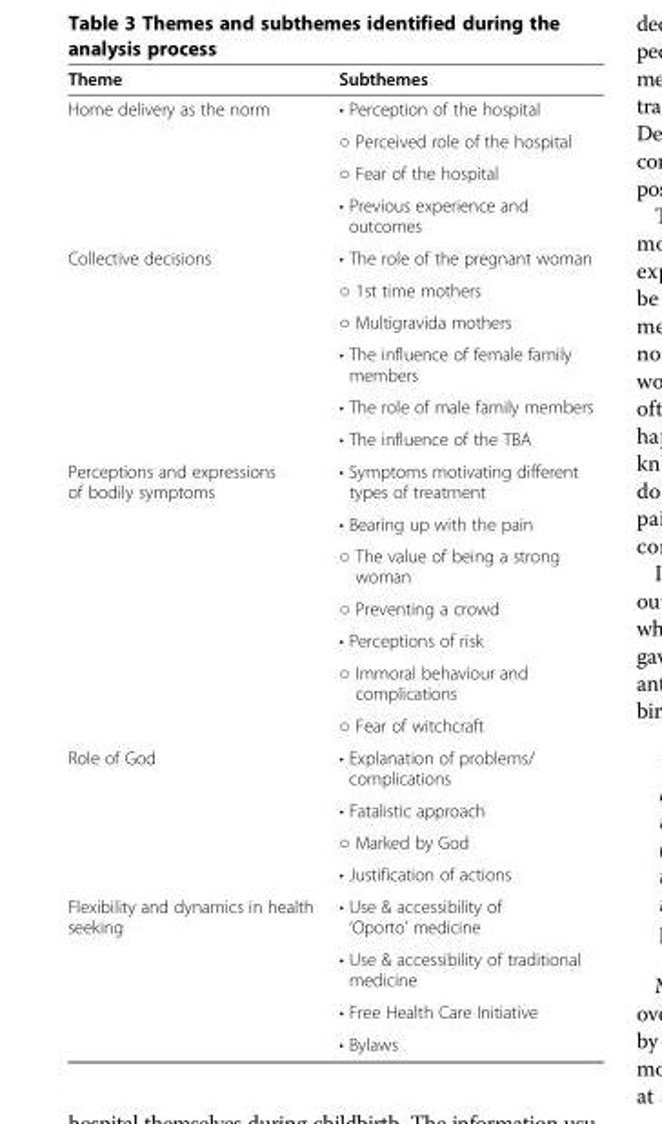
<table><thead><tr><td>Theme</td><td>Subthemes</td></tr></thead><tbody><tr><td rowspan="4">Home delivery as the norm</td><td>• Perception of the hospital</td></tr><tr><td>○ Perceived role of the hospital</td></tr><tr><td>○ Fear of the hospital</td></tr><tr><td>• Previous experience and outcomes</td></tr><tr><td rowspan="6">Collective decisions</td><td>• The role of the pregnant woman</td></tr><tr><td>○ 1st time mothers</td></tr><tr><td>○ Multigravida mothers</td></tr><tr><td>• The influence of female family members</td></tr><tr><td>• The role of male family members</td></tr><tr><td>• The influence of the TBA</td></tr><tr><td rowspan="7">Perceptions and expressions of bodily symptoms</td><td>• Symptoms motivating different types of treatment</td></tr><tr><td>• Bearing up with the pain</td></tr><tr><td>○ The value of being a strong woman</td></tr><tr><td>○ Preventing a crowd</td></tr><tr><td>• Perceptions of risk</td></tr><tr><td>○ Immoral behaviour and complications</td></tr><tr><td>○ Fear of witchcraft</td></tr><tr><td rowspan="4">Role of God</td><td>• Explanation of problems/ complications</td></tr><tr><td>• Fatalistic approach</td></tr><tr><td>○ Marked by God</td></tr><tr><td>• Justification of actions</td></tr><tr><td rowspan="4">Flexibility and dynamics in health seeking</td><td>• Use &amp; accessibility of ‘Oporto’ medicine</td></tr><tr><td>• Use &amp; accessibility of traditional medicine</td></tr><tr><td>• Free Health Care Initiative</td></tr><tr><td>• Bylaws</td></tr></tbody></table>